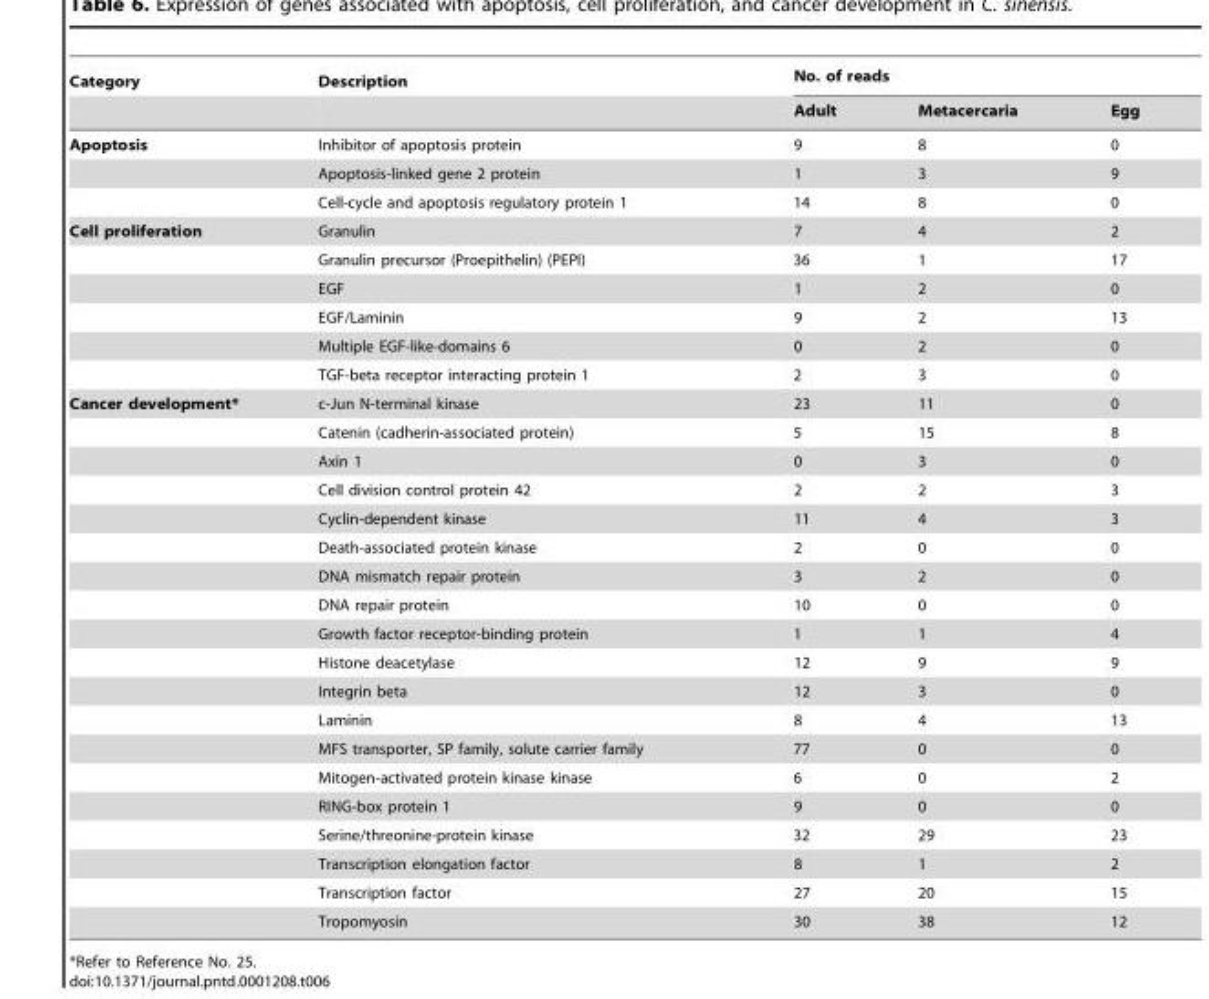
<table><thead><tr><td rowspan="2">Category</td><td rowspan="2">Description</td><td colspan="3">No. of reads</td></tr><tr><td>Adult</td><td>Metacercaria</td><td>Egg</td></tr></thead><tbody><tr><td rowspan="3">Apoptosis</td><td>Inhibitor of apoptosis protein</td><td>9</td><td>8</td><td>0</td></tr><tr><td>Apoptosis-linked gene 2 protein</td><td>1</td><td>3</td><td>9</td></tr><tr><td>Cell-cycle and apoptosis regulatory protein 1</td><td>14</td><td>8</td><td>0</td></tr><tr><td rowspan="6">Cell proliferation</td><td>Granulin</td><td>7</td><td>4</td><td>2</td></tr><tr><td>Granulin precursor (Proepithelin) (PEPI)</td><td>36</td><td>1</td><td>17</td></tr><tr><td>EGF</td><td>1</td><td>2</td><td>0</td></tr><tr><td>EGF/Laminin</td><td>9</td><td>2</td><td>13</td></tr><tr><td>Multiple EGF-like-domains 6</td><td>0</td><td>2</td><td>0</td></tr><tr><td>TGF-beta receptor interacting protein 1</td><td>2</td><td>3</td><td>0</td></tr><tr><td rowspan="19">Cancer development*</td><td>c-Jun N-terminal kinase</td><td>23</td><td>11</td><td>0</td></tr><tr><td>Catenin (cadherin-associated protein)</td><td>5</td><td>15</td><td>8</td></tr><tr><td>Axin 1</td><td>0</td><td>3</td><td>0</td></tr><tr><td>Cell division control protein 42</td><td>2</td><td>2</td><td>3</td></tr><tr><td>Cyclin-dependent kinase</td><td>11</td><td>4</td><td>3</td></tr><tr><td>Death-associated protein kinase</td><td>2</td><td>0</td><td>0</td></tr><tr><td>DNA mismatch repair protein</td><td>3</td><td>2</td><td>0</td></tr><tr><td>DNA repair protein</td><td>10</td><td>0</td><td>0</td></tr><tr><td>Growth factor receptor-binding protein</td><td>1</td><td>1</td><td>4</td></tr><tr><td>Histone deacetylase</td><td>12</td><td>9</td><td>9</td></tr><tr><td>Integrin beta</td><td>12</td><td>3</td><td>0</td></tr><tr><td>Laminin</td><td>8</td><td>4</td><td>13</td></tr><tr><td>MFS transporter, SP family, solute carrier family</td><td>77</td><td>0</td><td>0</td></tr><tr><td>Mitogen-activated protein kinase kinase</td><td>6</td><td>0</td><td>2</td></tr><tr><td>RING-box protein 1</td><td>9</td><td>0</td><td>0</td></tr><tr><td>Serine/threonine-protein kinase</td><td>32</td><td>29</td><td>23</td></tr><tr><td>Transcription elongation factor</td><td>8</td><td>1</td><td>2</td></tr><tr><td>Transcription factor</td><td>27</td><td>20</td><td>15</td></tr><tr><td>Tropomyosin</td><td>30</td><td>38</td><td>12</td></tr></tbody></table>